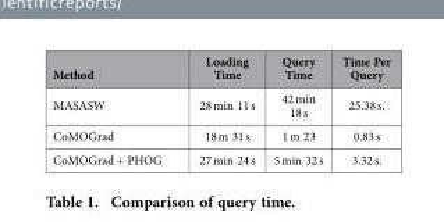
<table><thead><tr><td>Method</td><td>Loading Time</td><td>Query Time</td><td>Time Per Query</td></tr></thead><tbody><tr><td>MASASW</td><td>28 min 11 s</td><td>42 min 18 s</td><td>25.38 s.</td></tr><tr><td>CoMOGrad</td><td>18 m 31 s</td><td>1 m 23</td><td>0.83 s</td></tr><tr><td>CoMOGrad + PHOG</td><td>27 min 24 s</td><td>5 min 32 s</td><td>3.32 s.</td></tr></tbody></table>